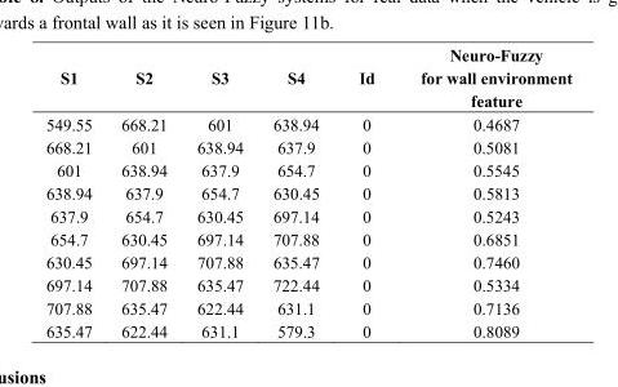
<table><thead><tr><td>S1</td><td>S2</td><td>S3</td><td>S4</td><td>Id</td><td>Neuro-Fuzzy for wall environment feature</td></tr></thead><tbody><tr><td>549.55</td><td>668.21</td><td>601</td><td>638.94</td><td>0</td><td>0.4687</td></tr><tr><td>668.21</td><td>601</td><td>638.94</td><td>637.9</td><td>0</td><td>0.5081</td></tr><tr><td>601</td><td>638.94</td><td>637.9</td><td>654.7</td><td>0</td><td>0.5545</td></tr><tr><td>638.94</td><td>637.9</td><td>654.7</td><td>630.45</td><td>0</td><td>0.5813</td></tr><tr><td>637.9</td><td>654.7</td><td>630.45</td><td>697.14</td><td>0</td><td>0.5243</td></tr><tr><td>654.7</td><td>630.45</td><td>697.14</td><td>707.88</td><td>0</td><td>0.6851</td></tr><tr><td>630.45</td><td>697.14</td><td>707.88</td><td>635.47</td><td>0</td><td>0.7460</td></tr><tr><td>697.14</td><td>707.88</td><td>635.47</td><td>722.44</td><td>0</td><td>0.5334</td></tr><tr><td>707.88</td><td>635.47</td><td>622.44</td><td>631.1</td><td>0</td><td>0.7136</td></tr><tr><td>635.47</td><td>622.44</td><td>631.1</td><td>579.3</td><td>0</td><td>0.8089</td></tr></tbody></table>